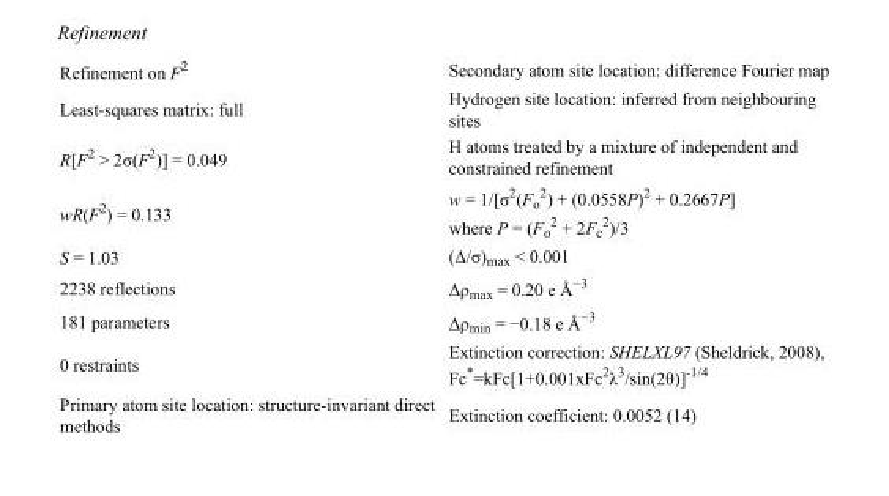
<table><tbody><tr><td>Refinement on F<sup>2</sup></td><td>Secondary atom site location: difference Fourier map</td></tr><tr><td>Least-squares matrix: full</td><td>Hydrogen site location: inferred from neighbouring sites</td></tr><tr><td>R[F<sup>2</sup> &gt; 2σ(F<sup>2</sup>)] = 0.049</td><td>H atoms treated by a mixture of independent and constrained refinement</td></tr><tr><td>wR(F<sup>2</sup>) = 0.133</td><td>w = 1/[σ<sup>2</sup>(F<sub>o</sub> <sup>2</sup>) + (0.0558P)<sup>2</sup> + 0.2667P] where P = (F<sub>o</sub> <sup>2</sup> + 2F<sub>c</sub> <sup>2</sup>)/3</td></tr><tr><td>S = 1.03</td><td>(Δ/σ)<sub>max</sub> &lt; 0.001</td></tr><tr><td>2238 reflections</td><td>Δρ<sub>max</sub> = 0.20 e Å<sup>−3</sup></td></tr><tr><td>181 parameters</td><td>Δρ<sub>min</sub> = −0.18 e Å<sup>−3</sup></td></tr><tr><td>0 restraints</td><td>Extinction correction: SHELXL97 (Sheldrick, 2008), Fc*=kFc[1+0.001xFc<sup>2</sup>λ<sup>3</sup>/sin(2θ)]<sup>-1/4</sup></td></tr><tr><td>Primary atom site location: structure-invariant direct methods</td><td>Extinction coefficient: 0.0052 (14)</td></tr></tbody></table>